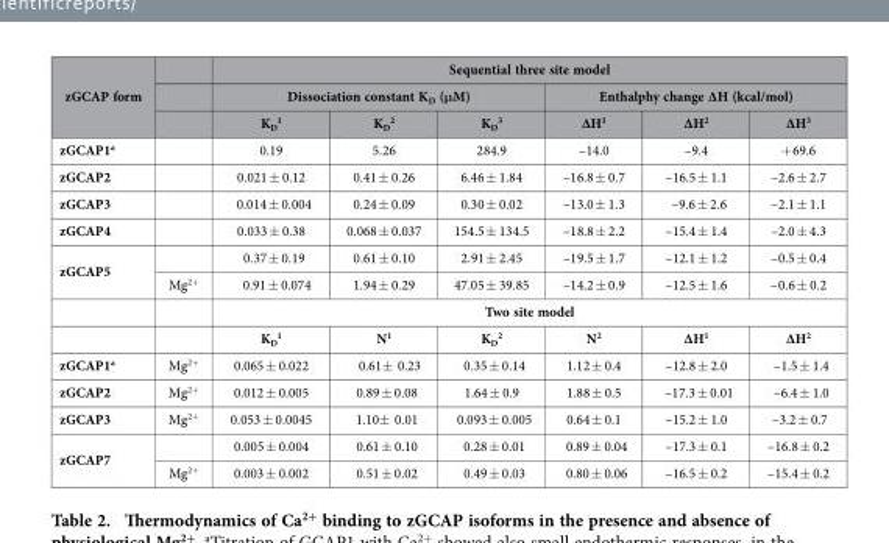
<table><thead><tr><td rowspan="3">zGCAP form</td><td rowspan="3"></td><td colspan="6">Sequential three site model</td></tr><tr><td colspan="3">Dissociation constant K<sub>D</sub> (μM)</td><td colspan="3">Enthalphy change ∆H (kcal/mol)</td></tr><tr><td>K<sub>D</sub> <sup>1</sup></td><td>K<sub>D</sub> <sup>2</sup></td><td>K<sub>D</sub> <sup>3</sup></td><td>∆H<sup>1</sup></td><td>∆H<sup>2</sup></td><td>∆H<sup>3</sup></td></tr></thead><tbody><tr><td>zGCAP1<sup>a</sup></td><td></td><td>0.19</td><td>5.26</td><td>284.9</td><td>–14.0</td><td>–9.4</td><td>+ 69.6</td></tr><tr><td>zGCAP2</td><td></td><td>0.021 ± 0.12</td><td>0.41 ± 0.26</td><td>6.46 ± 1.84</td><td>–16.8 ± 0.7</td><td>–16.5 ± 1.1</td><td>–2.6 ± 2.7</td></tr><tr><td>zGCAP3</td><td></td><td>0.014 ± 0.004</td><td>0.24 ± 0.09</td><td>0.30 ± 0.02</td><td>–13.0 ± 1.3</td><td>–9.6 ± 2.6</td><td>–2.1 ± 1.1</td></tr><tr><td>zGCAP4</td><td></td><td>0.033 ± 0.38</td><td>0.068 ± 0.037</td><td>154.5 ± 134.5</td><td>–18.8 ± 2.2</td><td>–15.4 ± 1.4</td><td>–2.0 ± 4.3</td></tr><tr><td rowspan="4">zGCAP5</td><td></td><td>0.37 ± 0.19</td><td>0.61 ± 0.10</td><td>2.91 ± 2.45</td><td>–19.5 ± 1.7</td><td>–12.1 ± 1.2</td><td>–0.5 ± 0.4</td></tr><tr><td>Mg<sup>2+</sup></td><td>0.91 ± 0.074</td><td>1.94 ± 0.29</td><td>47.05 ± 39.85</td><td>–14.2 ± 0.9</td><td>–12.5 ± 1.6</td><td>– 0.6 ± 0.2</td></tr><tr><td></td><td colspan="6">Two site model</td></tr><tr><td></td><td>K<sub>D</sub> <sup>1</sup></td><td>N<sup>1</sup></td><td>K<sub>D</sub> <sup>2</sup></td><td>N<sup>2</sup></td><td>∆H<sup>1</sup></td><td>∆H<sup>2</sup></td></tr><tr><td>zGCAP1<sup>a</sup></td><td>Mg<sup>2+</sup></td><td>0.065 ± 0.022</td><td>0.61± 0.23</td><td>0.35 ± 0.14</td><td>1.12 ± 0.4</td><td>–12.8 ± 2.0</td><td>–1.5 ± 1.4</td></tr><tr><td>zGCAP2</td><td>Mg<sup>2+</sup></td><td>0.012 ± 0.005</td><td>0.89 ± 0.08</td><td>1.64 ± 0.9</td><td>1.88 ± 0.5</td><td>–17.3 ± 0.01</td><td>–6.4 ± 1.0</td></tr><tr><td>zGCAP3</td><td>Mg<sup>2+</sup></td><td>0.053 ± 0.0045</td><td>1.10± 0.01</td><td>0.093 ± 0.005</td><td>0.64 ± 0.1</td><td>–15.2 ± 1.0</td><td>–3.2 ± 0.7</td></tr><tr><td rowspan="2">zGCAP7</td><td></td><td>0.005 ± 0.004</td><td>0.61 ± 0.10</td><td>0.28 ± 0.01</td><td>0.89 ± 0.04</td><td>–17.3 ± 0.1</td><td>–16.8 ± 0.2</td></tr><tr><td>Mg<sup>2+</sup></td><td>0.003 ± 0.002</td><td>0.51 ± 0.02</td><td>0.49 ± 0.03</td><td>0.80 ± 0.06</td><td>–16.5 ± 0.2</td><td>–15.4 ± 0.2</td></tr></tbody></table>